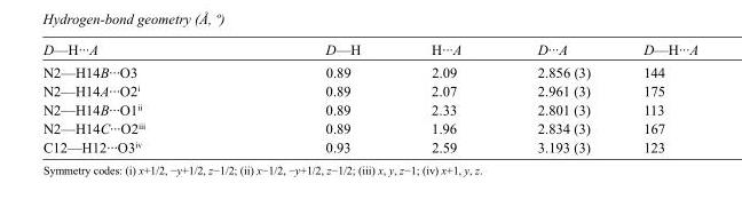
<table><tbody><tr><td>D—H···A</td><td>D—H</td><td>H···A</td><td>D···A</td><td>D—H···A</td></tr><tr><td>N2—H14B···O3</td><td>0.89</td><td>2.09</td><td>2.856 (3)</td><td>144</td></tr><tr><td>N2—H14A···O2<sup>i</sup></td><td>0.89</td><td>2.07</td><td>2.961 (3)</td><td>175</td></tr><tr><td>N2—H14B···O1<sup>ii</sup></td><td>0.89</td><td>2.33</td><td>2.801 (3)</td><td>113</td></tr><tr><td>N2—H14C···O2<sup>iii</sup></td><td>0.89</td><td>1.96</td><td>2.834 (3)</td><td>167</td></tr><tr><td>C12—H12···O3<sup>iv</sup></td><td>0.93</td><td>2.59</td><td>3.193 (3)</td><td>123</td></tr></tbody></table>